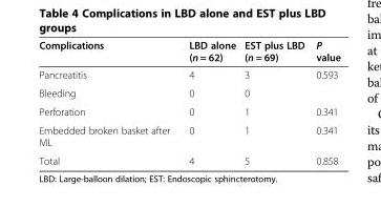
<table><thead><tr><td>Complications</td><td>LBD alone (n = 62)</td><td>EST plus LBD (n = 69)</td><td>P value</td></tr></thead><tbody><tr><td>Pancreatitis</td><td>4</td><td>3</td><td>0.593</td></tr><tr><td>Bleeding</td><td>0</td><td>0</td><td></td></tr><tr><td>Perforation</td><td>0</td><td>1</td><td>0.341</td></tr><tr><td>Embedded broken basket after ML</td><td>0</td><td>1</td><td>0.341</td></tr><tr><td>Total</td><td>4</td><td>5</td><td>0.858</td></tr></tbody></table>